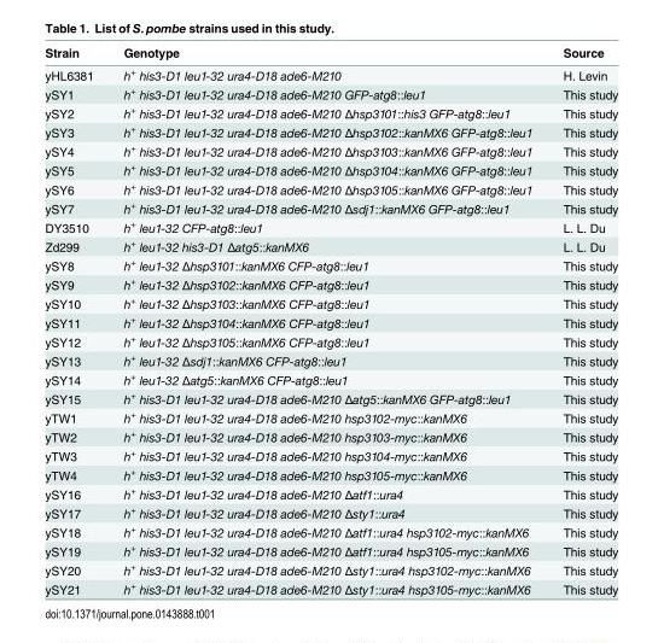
<table><thead><tr><td>Strain</td><td>Genotype</td><td>Source</td></tr></thead><tbody><tr><td>yHL6381</td><td>h<sup>+</sup> his3-D1 leu1-32 ura4-D18 ade6-M210</td><td>H. Levin</td></tr><tr><td>ySY1</td><td>h<sup>+</sup> his3-D1 leu1-32 ura4-D18 ade6-M210 GFP-atg8::leu1</td><td>This study</td></tr><tr><td>ySY2</td><td>h<sup>+</sup> his3-D1 leu1-32 ura4-D18 ade6-M210 Δhsp3101::his3 GFP-atg8::leu1</td><td>This study</td></tr><tr><td>ySY3</td><td>h<sup>+</sup> his3-D1 leu1-32 ura4-D18 ade6-M210 Δhsp3102::kanMX6 GFP-atg8::leu1</td><td>This study</td></tr><tr><td>ySY4</td><td>h<sup>+</sup> his3-D1 leu1-32 ura4-D18 ade6-M210 Δhsp3103::kanMX6 GFP-atg8::leu1</td><td>This study</td></tr><tr><td>ySY5</td><td>h<sup>+</sup> his3-D1 leu1-32 ura4-D18 ade6-M210 Δhsp3104::kanMX6 GFP-atg8::leu1</td><td>This study</td></tr><tr><td>ySY6</td><td>h<sup>+</sup> his3-D1 leu1-32 ura4-D18 ade6-M210 Δhsp3105::kanMX6 GFP-atg8::leu1</td><td>This study</td></tr><tr><td>ySY7</td><td>h<sup>+</sup> his3-D1 leu1-32 ura4-D18 ade6-M210 Δsdj1::kanMX6 GFP-atg8::leu1</td><td>This study</td></tr><tr><td>DY3510</td><td>h<sup>+</sup> leu1-32 CFP-atg8::leu1</td><td>L. L. Du</td></tr><tr><td>Zd299</td><td>h<sup>+</sup> leu1-32 his3-D1 Δatg5::kanMX6</td><td>L. L. Du</td></tr><tr><td>ySY8</td><td>h<sup>+</sup> leu1-32 Δhsp3101::kanMX6 CFP-atg8::leu1</td><td>This study</td></tr><tr><td>ySY9</td><td>h<sup>+</sup> leu1-32 Δhsp3102::kanMX6 CFP-atg8::leu1</td><td>This study</td></tr><tr><td>ySY10</td><td>h<sup>+</sup> leu1-32 Δhsp3103::kanMX6 CFP-atg8::leu1</td><td>This study</td></tr><tr><td>ySY11</td><td>h<sup>+</sup> leu1-32 Δhsp3104::kanMX6 CFP-atg8::leu1</td><td>This study</td></tr><tr><td>ySY12</td><td>h<sup>+</sup> leu1-32 Δhsp3105::kanMX6 CFP-atg8::leu1</td><td>This study</td></tr><tr><td>ySY13</td><td>h<sup>+</sup> leu1-32 Δsdj1::kanMX6 CFP-atg8::leu1</td><td>This study</td></tr><tr><td>ySY14</td><td>h<sup>+</sup> leu1-32 Δatg5::kanMX6 CFP-atg8::leu1</td><td>This study</td></tr><tr><td>ySY15</td><td>h<sup>+</sup> his3-D1 leu1-32 ura4-D18 ade6-M210 Δatg5::kanMX6 GFP-atg8::leu1</td><td>This study</td></tr><tr><td>yTW1</td><td>h<sup>+</sup> his3-D1 leu1-32 ura4-D18 ade6-M210 hsp3102-myc::kanMX6</td><td>This study</td></tr><tr><td>yTW2</td><td>h<sup>+</sup> his3-D1 leu1-32 ura4-D18 ade6-M210 hsp3103-myc::kanMX6</td><td>This study</td></tr><tr><td>yTW3</td><td>h<sup>+</sup> his3-D1 leu1-32 ura4-D18 ade6-M210 hsp3104-myc::kanMX6</td><td>This study</td></tr><tr><td>yTW4</td><td>h<sup>+</sup> his3-D1 leu1-32 ura4-D18 ade6-M210 hsp3105-myc::kanMX6</td><td>This study</td></tr><tr><td>ySY16</td><td>h<sup>+</sup> his3-D1 leu1-32 ura4-D18 ade6-M210 Δatf1::ura4</td><td>This study</td></tr><tr><td>ySY17</td><td>h<sup>+</sup> his3-D1 leu1-32 ura4-D18 ade6-M210 Δsty1::ura4</td><td>This study</td></tr><tr><td>ySY18</td><td>h<sup>+</sup> his3-D1 leu1-32 ura4-D18 ade6-M210 Δatf1::ura4 hsp3102-myc::kanMX6</td><td>This study</td></tr><tr><td>ySY19</td><td>h<sup>+</sup> his3-D1 leu1-32 ura4-D18 ade6-M210 Δatf1::ura4 hsp3105-myc::kanMX6</td><td>This study</td></tr><tr><td>ySY20</td><td>h<sup>+</sup> his3-D1 leu1-32 ura4-D18 ade6-M210 Δsty1::ura4 hsp3102-myc::kanMX6</td><td>This study</td></tr><tr><td>ySY21</td><td>h<sup>+</sup> his3-D1 leu1-32 ura4-D18 ade6-M210 Δsty1::ura4 hsp3105-myc::kanMX6</td><td>This study</td></tr></tbody></table>